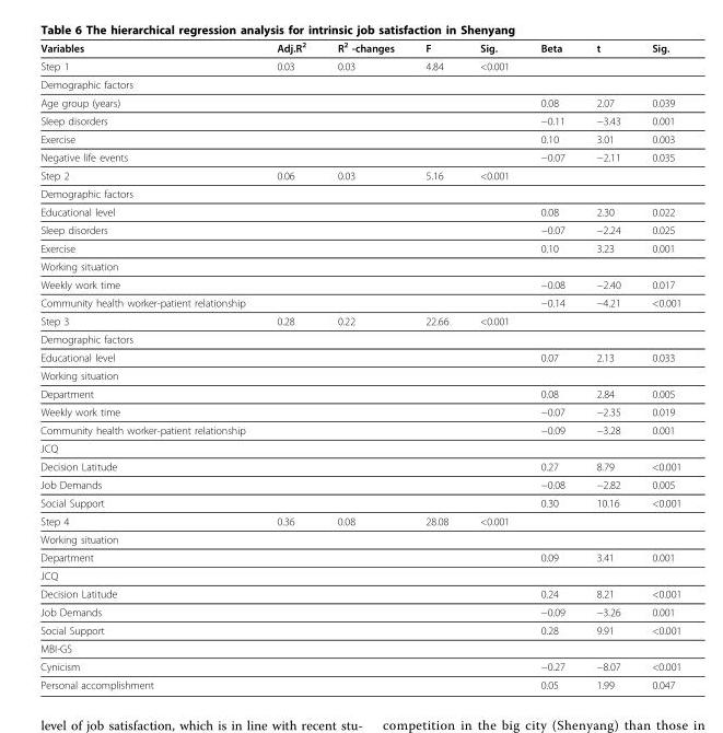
<table><thead><tr><td>Variables</td><td>Adj.R<sup>2</sup></td><td>R<sup>2</sup> -changes</td><td>F</td><td>Sig.</td><td>Beta</td><td>t</td><td>Sig.</td></tr></thead><tbody><tr><td>Step 1</td><td>0.03</td><td>0.03</td><td>4.84</td><td>&lt;0.001</td><td></td><td></td><td></td></tr><tr><td colspan="8">Demographic factors</td></tr><tr><td>Age group (years)</td><td></td><td></td><td></td><td></td><td>0.08</td><td>2.07</td><td>0.039</td></tr><tr><td>Sleep disorders</td><td></td><td></td><td></td><td></td><td>−0.11</td><td>−3.43</td><td>0.001</td></tr><tr><td>Exercise</td><td></td><td></td><td></td><td></td><td>0.10</td><td>3.01</td><td>0.003</td></tr><tr><td>Negative life events</td><td></td><td></td><td></td><td></td><td>−0.07</td><td>−2.11</td><td>0.035</td></tr><tr><td>Step 2</td><td>0.06</td><td>0.03</td><td>5.16</td><td>&lt;0.001</td><td></td><td></td><td></td></tr><tr><td colspan="8">Demographic factors</td></tr><tr><td>Educational level</td><td></td><td></td><td></td><td></td><td>0.08</td><td>2.30</td><td>0.022</td></tr><tr><td>Sleep disorders</td><td></td><td></td><td></td><td></td><td>−0.07</td><td>−2.24</td><td>0.025</td></tr><tr><td>Exercise</td><td></td><td></td><td></td><td></td><td>0.10</td><td>3.23</td><td>0.001</td></tr><tr><td colspan="8">Working situation</td></tr><tr><td>Weekly work time</td><td></td><td></td><td></td><td></td><td>−0.08</td><td>−2.40</td><td>0.017</td></tr><tr><td>Community health worker-patient relationship</td><td></td><td></td><td></td><td></td><td>−0.14</td><td>−4.21</td><td>&lt;0.001</td></tr><tr><td>Step 3</td><td>0.28</td><td>0.22</td><td>22.66</td><td>&lt;0.001</td><td></td><td></td><td></td></tr><tr><td colspan="8">Demographic factors</td></tr><tr><td>Educational level</td><td></td><td></td><td></td><td></td><td>0.07</td><td>2.13</td><td>0.033</td></tr><tr><td colspan="8">Working situation</td></tr><tr><td>Department</td><td></td><td></td><td></td><td></td><td>0.08</td><td>2.84</td><td>0.005</td></tr><tr><td>Weekly work time</td><td></td><td></td><td></td><td></td><td>−0.07</td><td>−2.35</td><td>0.019</td></tr><tr><td>Community health worker-patient relationship</td><td></td><td></td><td></td><td></td><td>−0.09</td><td>−3.28</td><td>0.001</td></tr><tr><td colspan="8">JCQ</td></tr><tr><td>Decision Latitude</td><td></td><td></td><td></td><td></td><td>0.27</td><td>8.79</td><td>&lt;0.001</td></tr><tr><td>Job Demands</td><td></td><td></td><td></td><td></td><td>−0.08</td><td>−2.82</td><td>0.005</td></tr><tr><td>Social Support</td><td></td><td></td><td></td><td></td><td>0.30</td><td>10.16</td><td>&lt;0.001</td></tr><tr><td>Step 4</td><td>0.36</td><td>0.08</td><td>28.08</td><td>&lt;0.001</td><td></td><td></td><td></td></tr><tr><td colspan="8">Working situation</td></tr><tr><td>Department</td><td></td><td></td><td></td><td></td><td>0.09</td><td>3.41</td><td>0.001</td></tr><tr><td colspan="8">JCQ</td></tr><tr><td>Decision Latitude</td><td></td><td></td><td></td><td></td><td>0.24</td><td>8.21</td><td>&lt;0.001</td></tr><tr><td>Job Demands</td><td></td><td></td><td></td><td></td><td>−0.09</td><td>−3.26</td><td>0.001</td></tr><tr><td>Social Support</td><td></td><td></td><td></td><td></td><td>0.28</td><td>9.91</td><td>&lt;0.001</td></tr><tr><td colspan="8">MBI-GS</td></tr><tr><td>Cynicism</td><td></td><td></td><td></td><td></td><td>−0.27</td><td>−8.07</td><td>&lt;0.001</td></tr><tr><td>Personal accomplishment</td><td></td><td></td><td></td><td></td><td>0.05</td><td>1.99</td><td>0.047</td></tr></tbody></table>